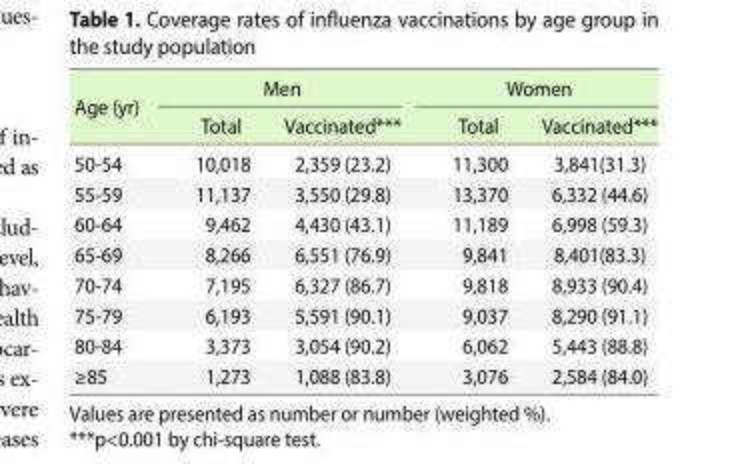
<table><thead><tr><td rowspan="2">Age (yr)</td><td colspan="2">Men</td><td colspan="2">Women</td></tr><tr><td>Total</td><td>Vaccinated***</td><td>Total</td><td>Vaccinated***</td></tr></thead><tbody><tr><td>50-54</td><td>10,018</td><td>2,359 (23.2)</td><td>11,300</td><td>3,841(31.3)</td></tr><tr><td>55-59</td><td>11,137</td><td>3,550 (29.8)</td><td>13,370</td><td>6,332 (44.6)</td></tr><tr><td>60-64</td><td>9,462</td><td>4,430 (43.1)</td><td>11,189</td><td>6,998 (59.3)</td></tr><tr><td>65-69</td><td>8,266</td><td>6,551 (76.9)</td><td>9,841</td><td>8,401(83.3)</td></tr><tr><td>70-74</td><td>7,195</td><td>6,327 (86.7)</td><td>9,818</td><td>8,933 (90.4)</td></tr><tr><td>75-79</td><td>6,193</td><td>5,591 (90.1)</td><td>9,037</td><td>8,290 (91.1)</td></tr><tr><td>80-84</td><td>3,373</td><td>3,054 (90.2)</td><td>6,062</td><td>5,443 (88.8)</td></tr><tr><td>≥85</td><td>1,273</td><td>1,088 (83.8)</td><td>3,076</td><td>2,584 (84.0)</td></tr></tbody></table>